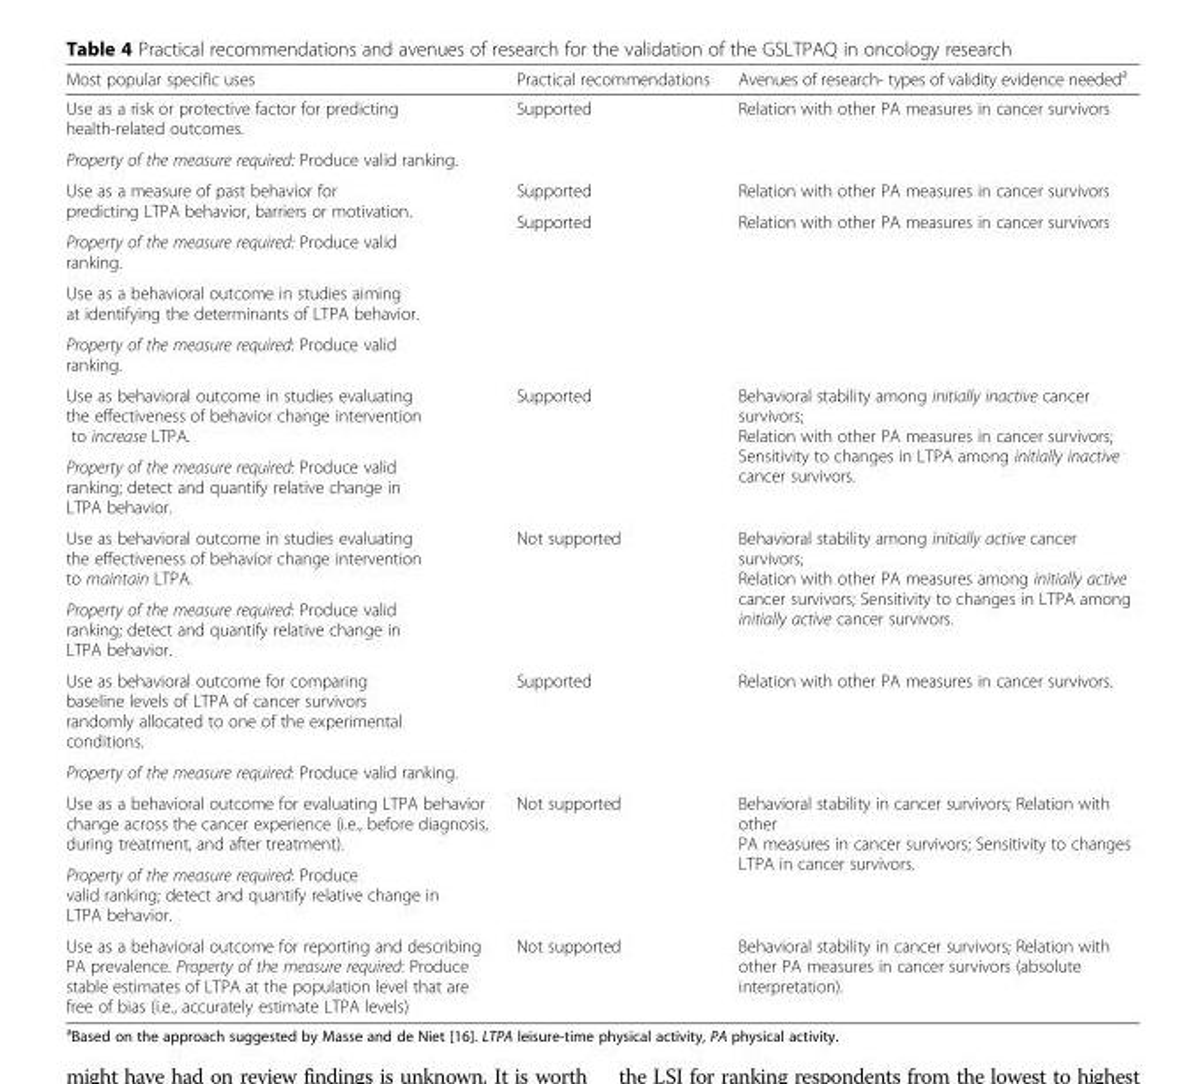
<table><thead><tr><td>Most popular specific uses</td><td>Practical recommendations</td><td>Avenues of research- types of validity evidence needed<sup>a</sup></td></tr></thead><tbody><tr><td>Use as a risk or protective factor for predicting health-related outcomes.</td><td rowspan="2">Supported</td><td rowspan="2">Relation with other PA measures in cancer survivors</td></tr><tr><td>Property of the measure required: Produce valid ranking.</td></tr><tr><td rowspan="2">Use as a measure of past behavior for predicting LTPA behavior, barriers or motivation.</td><td>Supported</td><td>Relation with other PA measures in cancer survivors</td></tr><tr><td rowspan="4">Supported</td><td rowspan="4">Relation with other PA measures in cancer survivors</td></tr><tr><td>Property of the measure required: Produce valid ranking.</td></tr><tr><td>Use as a behavioral outcome in studies aiming at identifying the determinants of LTPA behavior.</td></tr><tr><td>Property of the measure required: Produce valid ranking.</td></tr><tr><td>Use as behavioral outcome in studies evaluating the effectiveness of behavior change intervention to increase LTPA.</td><td rowspan="2">Supported</td><td rowspan="2">Behavioral stability among initially inactive cancer survivors; Relation with other PA measures in cancer survivors; Sensitivity to changes in LTPA among initially inactive cancer survivors.</td></tr><tr><td>Property of the measure required: Produce valid ranking; detect and quantify relative change in LTPA behavior.</td></tr><tr><td>Use as behavioral outcome in studies evaluating the effectiveness of behavior change intervention to maintain LTPA.</td><td rowspan="2">Not supported</td><td rowspan="2">Behavioral stability among initially active cancer survivors; Relation with other PA measures among initially active cancer survivors; Sensitivity to changes in LTPA among initially active cancer survivors.</td></tr><tr><td>Property of the measure required: Produce valid ranking; detect and quantify relative change in LTPA behavior.</td></tr><tr><td>Use as behavioral outcome for comparing baseline levels of LTPA of cancer survivors randomly allocated to one of the experimental conditions.</td><td rowspan="2">Supported</td><td rowspan="2">Relation with other PA measures in cancer survivors.</td></tr><tr><td>Property of the measure required: Produce valid ranking.</td></tr><tr><td>Use as a behavioral outcome for evaluating LTPA behavior change across the cancer experience (i.e., before diagnosis, during treatment, and after treatment).</td><td rowspan="2">Not supported</td><td rowspan="2">Behavioral stability in cancer survivors; Relation with other PA measures in cancer survivors; Sensitivity to changes LTPA in cancer survivors.</td></tr><tr><td>Property of the measure required: Produce valid ranking; detect and quantify relative change in LTPA behavior.</td></tr><tr><td>Use as a behavioral outcome for reporting and describing PA prevalence. Property of the measure required: Produce stable estimates of LTPA at the population level that are free of bias (i.e., accurately estimate LTPA levels)</td><td>Not supported</td><td>Behavioral stability in cancer survivors; Relation with other PA measures in cancer survivors (absolute interpretation).</td></tr></tbody></table>